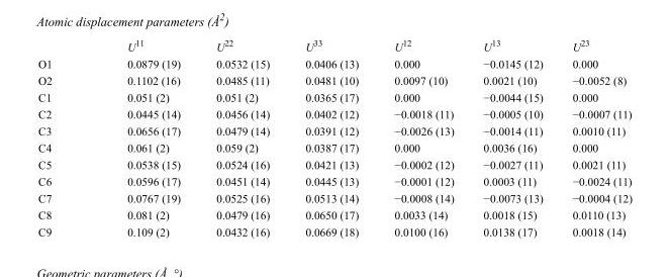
<table><thead><tr><td></td><td>U<sup>11</sup></td><td>U<sup>22</sup></td><td>U<sup>33</sup></td><td>U<sup>12</sup></td><td>U<sup>13</sup></td><td>U<sup>23</sup></td></tr></thead><tbody><tr><td>O1</td><td>0.0879 (19)</td><td>0.0532 (15)</td><td>0.0406 (13)</td><td>0.000</td><td>−0.0145 (12)</td><td>0.000</td></tr><tr><td>O2</td><td>0.1102 (16)</td><td>0.0485 (11)</td><td>0.0481 (10)</td><td>0.0097 (10)</td><td>0.0021 (10)</td><td>−0.0052 (8)</td></tr><tr><td>C1</td><td>0.051 (2)</td><td>0.051 (2)</td><td>0.0365 (17)</td><td>0.000</td><td>−0.0044 (15)</td><td>0.000</td></tr><tr><td>C2</td><td>0.0445 (14)</td><td>0.0456 (14)</td><td>0.0402 (12)</td><td>−0.0018 (11)</td><td>−0.0005 (10)</td><td>−0.0007 (11)</td></tr><tr><td>C3</td><td>0.0656 (17)</td><td>0.0479 (14)</td><td>0.0391 (12)</td><td>−0.0026 (13)</td><td>−0.0014 (11)</td><td>0.0010 (11)</td></tr><tr><td>C4</td><td>0.061 (2)</td><td>0.059 (2)</td><td>0.0387 (17)</td><td>0.000</td><td>0.0036 (16)</td><td>0.000</td></tr><tr><td>C5</td><td>0.0538 (15)</td><td>0.0524 (16)</td><td>0.0421 (13)</td><td>−0.0002 (12)</td><td>−0.0027 (11)</td><td>0.0021 (11)</td></tr><tr><td>C6</td><td>0.0596 (17)</td><td>0.0451 (14)</td><td>0.0445 (13)</td><td>−0.0001 (12)</td><td>0.0003 (11)</td><td>−0.0024 (11)</td></tr><tr><td>C7</td><td>0.0767 (19)</td><td>0.0525 (16)</td><td>0.0513 (14)</td><td>−0.0008 (14)</td><td>−0.0073 (13)</td><td>−0.0004 (12)</td></tr><tr><td>C8</td><td>0.081 (2)</td><td>0.0479 (16)</td><td>0.0650 (17)</td><td>0.0033 (14)</td><td>0.0018 (15)</td><td>0.0110 (13)</td></tr><tr><td>C9</td><td>0.109 (2)</td><td>0.0432 (16)</td><td>0.0669 (18)</td><td>0.0100 (16)</td><td>0.0138 (17)</td><td>0.0018 (14)</td></tr></tbody></table>